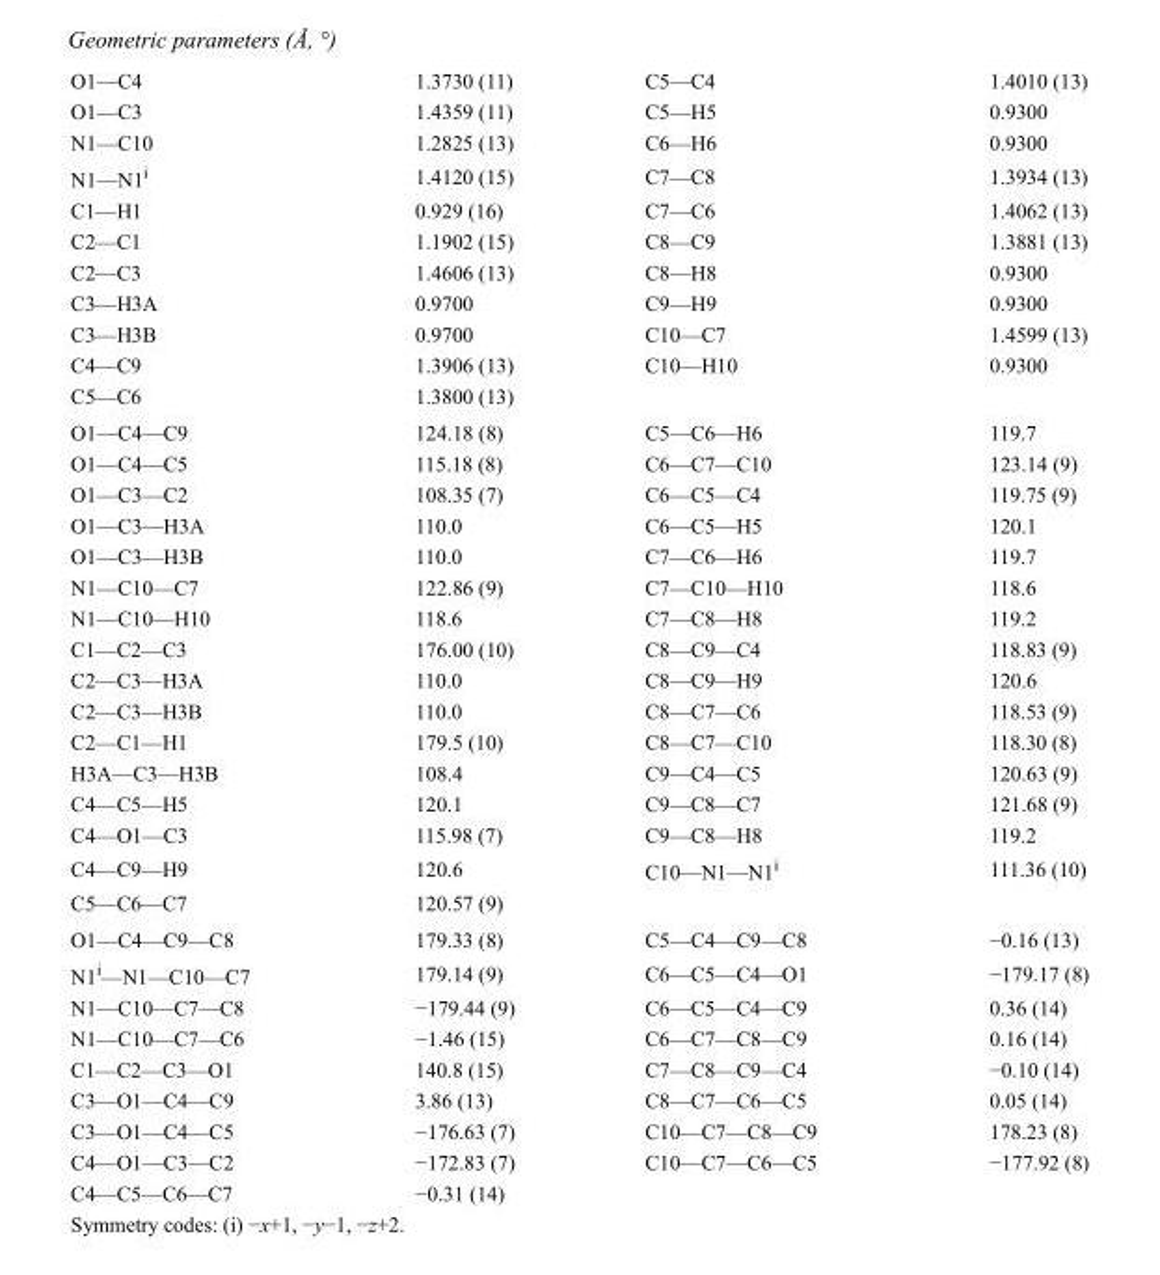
<table><tbody><tr><td>O1—C4</td><td>1.3730 (11)</td><td>C5—C4</td><td>1.4010 (13)</td></tr><tr><td>O1—C3</td><td>1.4359 (11)</td><td>C5—H5</td><td>0.9300</td></tr><tr><td>N1—C10</td><td>1.2825 (13)</td><td>C6—H6</td><td>0.9300</td></tr><tr><td>N1—N1<sup>i</sup></td><td>1.4120 (15)</td><td>C7—C8</td><td>1.3934 (13)</td></tr><tr><td>C1—H1</td><td>0.929 (16)</td><td>C7—C6</td><td>1.4062 (13)</td></tr><tr><td>C2—C1</td><td>1.1902 (15)</td><td>C8—C9</td><td>1.3881 (13)</td></tr><tr><td>C2—C3</td><td>1.4606 (13)</td><td>C8—H8</td><td>0.9300</td></tr><tr><td>C3—H3A</td><td>0.9700</td><td>C9—H9</td><td>0.9300</td></tr><tr><td>C3—H3B</td><td>0.9700</td><td>C10—C7</td><td>1.4599 (13)</td></tr><tr><td>C4—C9</td><td>1.3906 (13)</td><td>C10—H10</td><td>0.9300</td></tr><tr><td>C5—C6</td><td>1.3800 (13)</td><td></td><td></td></tr><tr><td>O1—C4—C9</td><td>124.18 (8)</td><td>C5—C6—H6</td><td>119.7</td></tr><tr><td>O1—C4—C5</td><td>115.18 (8)</td><td>C6—C7—C10</td><td>123.14 (9)</td></tr><tr><td>O1—C3—C2</td><td>108.35 (7)</td><td>C6—C5—C4</td><td>119.75 (9)</td></tr><tr><td>O1—C3—H3A</td><td>110.0</td><td>C6—C5—H5</td><td>120.1</td></tr><tr><td>O1—C3—H3B</td><td>110.0</td><td>C7—C6—H6</td><td>119.7</td></tr><tr><td>N1—C10—C7</td><td>122.86 (9)</td><td>C7—C10—H10</td><td>118.6</td></tr><tr><td>N1—C10—H10</td><td>118.6</td><td>C7—C8—H8</td><td>119.2</td></tr><tr><td>C1—C2—C3</td><td>176.00 (10)</td><td>C8—C9—C4</td><td>118.83 (9)</td></tr><tr><td>C2—C3—H3A</td><td>110.0</td><td>C8—C9—H9</td><td>120.6</td></tr><tr><td>C2—C3—H3B</td><td>110.0</td><td>C8—C7—C6</td><td>118.53 (9)</td></tr><tr><td>C2—C1—H1</td><td>179.5 (10)</td><td>C8—C7—C10</td><td>118.30 (8)</td></tr><tr><td>H3A—C3—H3B</td><td>108.4</td><td>C9—C4—C5</td><td>120.63 (9)</td></tr><tr><td>C4—C5—H5</td><td>120.1</td><td>C9—C8—C7</td><td>121.68 (9)</td></tr><tr><td>C4—O1—C3</td><td>115.98 (7)</td><td>C9—C8—H8</td><td>119.2</td></tr><tr><td>C4—C9—H9</td><td>120.6</td><td>C10—N1—N1<sup>i</sup></td><td>111.36 (10)</td></tr><tr><td>C5—C6—C7</td><td>120.57 (9)</td><td></td><td></td></tr><tr><td>O1—C4—C9—C8</td><td>179.33 (8)</td><td>C5—C4—C9—C8</td><td>−0.16 (13)</td></tr><tr><td>N1<sup>i</sup>—N1—C10—C7</td><td>179.14 (9)</td><td>C6—C5—C4—O1</td><td>−179.17 (8)</td></tr><tr><td>N1—C10—C7—C8</td><td>−179.44 (9)</td><td>C6—C5—C4—C9</td><td>0.36 (14)</td></tr><tr><td>N1—C10—C7—C6</td><td>−1.46 (15)</td><td>C6—C7—C8—C9</td><td>0.16 (14)</td></tr><tr><td>C1—C2—C3—O1</td><td>140.8 (15)</td><td>C7—C8—C9—C4</td><td>−0.10 (14)</td></tr><tr><td>C3—O1—C4—C9</td><td>3.86 (13)</td><td>C8—C7—C6—C5</td><td>0.05 (14)</td></tr><tr><td>C3—O1—C4—C5</td><td>−176.63 (7)</td><td>C10—C7—C8—C9</td><td>178.23 (8)</td></tr><tr><td>C4—O1—C3—C2</td><td>−172.83 (7)</td><td>C10—C7—C6—C5</td><td>−177.92 (8)</td></tr><tr><td>C4—C5—C6—C7</td><td>−0.31 (14)</td><td></td><td></td></tr></tbody></table>